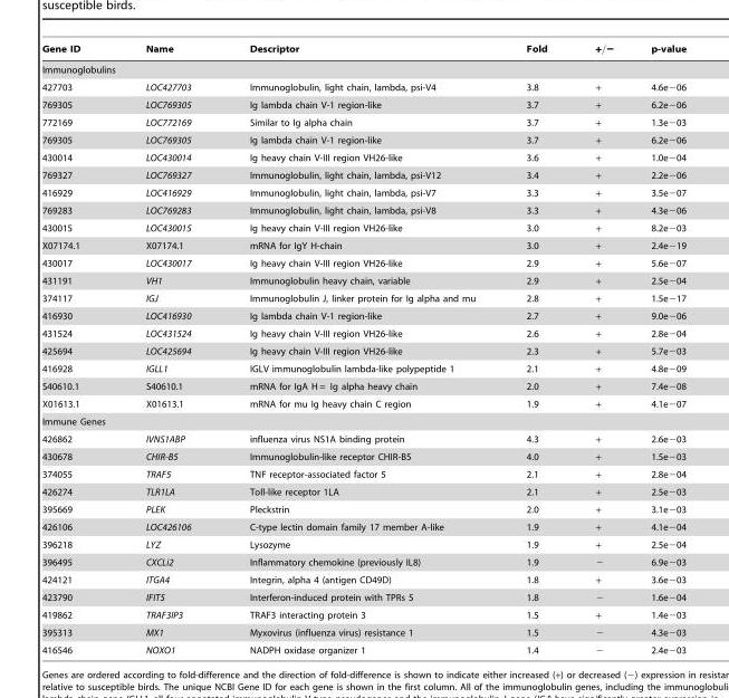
<table><thead><tr><td>Gene ID</td><td>Name</td><td>Descriptor</td><td>Fold</td><td>+=2</td><td>p-value</td></tr></thead><tbody><tr><td colspan="6">Immunoglobulins</td></tr><tr><td>427703</td><td>LOC427703</td><td>Immunoglobulin, light chain, lambda, psi-V4</td><td>3.8</td><td>+</td><td>4.6e−06</td></tr><tr><td>769305</td><td>LOC769305</td><td>Ig lambda chain V-1 region-like</td><td>3.7</td><td>+</td><td>6.2e−06</td></tr><tr><td>772169</td><td>LOC772169</td><td>Similar to Ig alpha chain</td><td>3.7</td><td>+</td><td>1.3e−03</td></tr><tr><td>769305</td><td>LOC769305</td><td>Ig lambda chain V-1 region-like</td><td>3.7</td><td>+</td><td>6.2e−06</td></tr><tr><td>430014</td><td>LOC430014</td><td>Ig heavy chain V-III region VH26-like</td><td>3.6</td><td>+</td><td>1.0e−04</td></tr><tr><td>769327</td><td>LOC769327</td><td>Immunoglobulin, light chain, lambda, psi-V12</td><td>3.4</td><td>+</td><td>2.2e−06</td></tr><tr><td>416929</td><td>LOC416929</td><td>Immunoglobulin, light chain, lambda, psi-V7</td><td>3.3</td><td>+</td><td>3.5e−07</td></tr><tr><td>769283</td><td>LOC769283</td><td>Immunoglobulin, light chain, lambda, psi-V8</td><td>3.3</td><td>+</td><td>4.3e−06</td></tr><tr><td>430015</td><td>LOC430015</td><td>Ig heavy chain V-III region VH26-like</td><td>3.0</td><td>+</td><td>8.2e−03</td></tr><tr><td>X07174.1</td><td>X07174.1</td><td>mRNA for IgY H-chain</td><td>3.0</td><td>+</td><td>2.4e−19</td></tr><tr><td>430017</td><td>LOC430017</td><td>Ig heavy chain V-III region VH26-like</td><td>2.9</td><td>+</td><td>5.6e−07</td></tr><tr><td>431191</td><td>VH1</td><td>Immunoglobulin heavy chain, variable</td><td>2.9</td><td>+</td><td>2.5e−04</td></tr><tr><td>374117</td><td>IGJ</td><td>Immunoglobulin J, linker protein for Ig alpha and mu</td><td>2.8</td><td>+</td><td>1.5e−17</td></tr><tr><td>416930</td><td>LOC416930</td><td>Ig lambda chain V-1 region-like</td><td>2.7</td><td>+</td><td>9.0e−06</td></tr><tr><td>431524</td><td>LOC431524</td><td>Ig heavy chain V-III region VH26-like</td><td>2.6</td><td>+</td><td>2.8e−04</td></tr><tr><td>425694</td><td>LOC425694</td><td>Ig heavy chain V-III region VH26-like</td><td>2.3</td><td>+</td><td>5.7e−03</td></tr><tr><td>416928</td><td>IGLL1</td><td>IGLV immunoglobulin lambda-like polypeptide 1</td><td>2.1</td><td>+</td><td>4.8e−09</td></tr><tr><td>S40610.1</td><td>S40610.1</td><td>mRNA for IgA H = Ig alpha heavy chain</td><td>2.0</td><td>+</td><td>7.4e−08</td></tr><tr><td>X01613.1</td><td>X01613.1</td><td>mRNA for mu Ig heavy chain C region</td><td>1.9</td><td>+</td><td>4.1e−07</td></tr><tr><td colspan="6">Immune Genes</td></tr><tr><td>426862</td><td>IVNS1ABP</td><td>influenza virus NS1A binding protein</td><td>4.3</td><td>+</td><td>2.6e−03</td></tr><tr><td>430678</td><td>CHIR-B5</td><td>Immunoglobulin-like receptor CHIR-B5</td><td>4.0</td><td>+</td><td>1.5e−03</td></tr><tr><td>374055</td><td>TRAF5</td><td>TNF receptor-associated factor 5</td><td>2.1</td><td>+</td><td>2.8e−04</td></tr><tr><td>426274</td><td>TLR1LA</td><td>Toll-like receptor 1LA</td><td>2.1</td><td>+</td><td>2.5e−03</td></tr><tr><td>395669</td><td>PLEK</td><td>Pleckstrin</td><td>2.0</td><td>+</td><td>3.1e−03</td></tr><tr><td>426106</td><td>LOC426106</td><td>C-type lectin domain family 17 member A-like</td><td>1.9</td><td>+</td><td>4.1e−04</td></tr><tr><td>396218</td><td>LYZ</td><td>Lysozyme</td><td>1.9</td><td>+</td><td>2.5e−04</td></tr><tr><td>396495</td><td>CXCLi2</td><td>Inflammatory chemokine (previously IL8)</td><td>1.9</td><td>−</td><td>6.9e−03</td></tr><tr><td>424121</td><td>ITGA4</td><td>Integrin, alpha 4 (antigen CD49D)</td><td>1.8</td><td>+</td><td>3.6e−03</td></tr><tr><td>423790</td><td>IFIT5</td><td>Interferon-induced protein with TPRs 5</td><td>1.8</td><td>−</td><td>1.6e−04</td></tr><tr><td>419862</td><td>TRAF3IP3</td><td>TRAF3 interacting protein 3</td><td>1.5</td><td>+</td><td>1.4e−03</td></tr><tr><td>395313</td><td>MX1</td><td>Myxovirus (influenza virus) resistance 1</td><td>1.5</td><td>−</td><td>4.3e−03</td></tr><tr><td>416546</td><td>NOXO1</td><td>NADPH oxidase organizer 1</td><td>1.4</td><td>−</td><td>2.4e−03</td></tr></tbody></table>